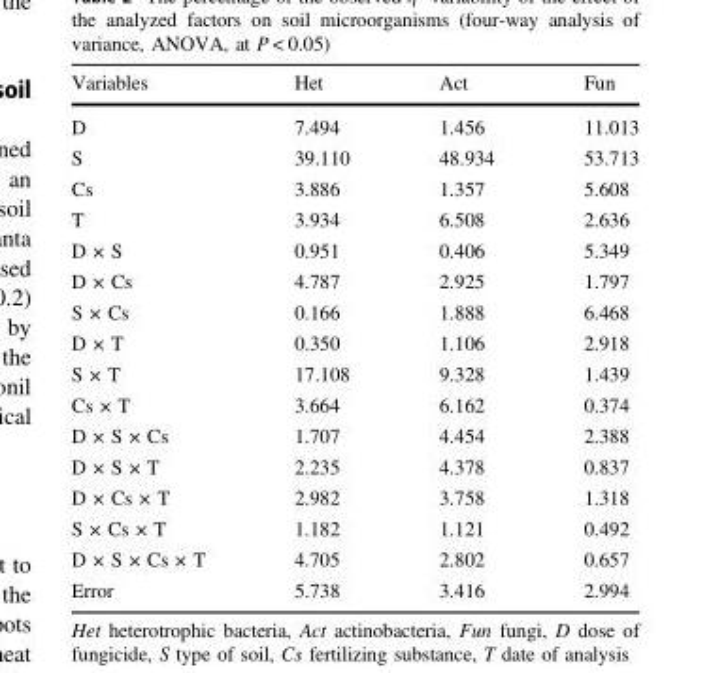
<table><thead><tr><td>Variables</td><td>Het</td><td>Act</td><td>Fun</td></tr></thead><tbody><tr><td>D</td><td>7.494</td><td>1.456</td><td>11.013</td></tr><tr><td>S</td><td>39.110</td><td>48.934</td><td>53.713</td></tr><tr><td>Cs</td><td>3.886</td><td>1.357</td><td>5.608</td></tr><tr><td>T</td><td>3.934</td><td>6.508</td><td>2.636</td></tr><tr><td>D × S</td><td>0.951</td><td>0.406</td><td>5.349</td></tr><tr><td>D × Cs</td><td>4.787</td><td>2.925</td><td>1.797</td></tr><tr><td>S × Cs</td><td>0.166</td><td>1.888</td><td>6.468</td></tr><tr><td>D × T</td><td>0.350</td><td>1.106</td><td>2.918</td></tr><tr><td>S × T</td><td>17.108</td><td>9.328</td><td>1.439</td></tr><tr><td>Cs × T</td><td>3.664</td><td>6.162</td><td>0.374</td></tr><tr><td>D × S × Cs</td><td>1.707</td><td>4.454</td><td>2.388</td></tr><tr><td>D × S × T</td><td>2.235</td><td>4.378</td><td>0.837</td></tr><tr><td>D × Cs × T</td><td>2.982</td><td>3.758</td><td>1.318</td></tr><tr><td>S × Cs × T</td><td>1.182</td><td>1.121</td><td>0.492</td></tr><tr><td>D × S × Cs × T</td><td>4.705</td><td>2.802</td><td>0.657</td></tr><tr><td>Error</td><td>5.738</td><td>3.416</td><td>2.994</td></tr></tbody></table>